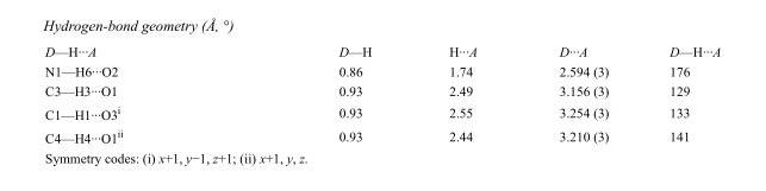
<table><tbody><tr><td>D—H···A</td><td>D—H</td><td>H···A</td><td>D···A</td><td>D—H···A</td></tr><tr><td>N1—H6···O2</td><td>0.86</td><td>1.74</td><td>2.594 (3)</td><td>176</td></tr><tr><td>C3—H3···O1</td><td>0.93</td><td>2.49</td><td>3.156 (3)</td><td>129</td></tr><tr><td>C1—H1···O3<sup>i</sup></td><td>0.93</td><td>2.55</td><td>3.254 (3)</td><td>133</td></tr><tr><td>C4—H4···O1<sup>ii</sup></td><td>0.93</td><td>2.44</td><td>3.210 (3)</td><td>141</td></tr></tbody></table>